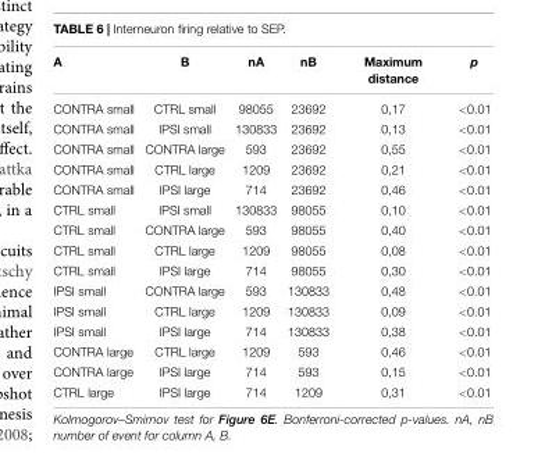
<table><thead><tr><td>A</td><td>B</td><td>nA</td><td>nB</td><td>Maximum distance</td><td>p</td></tr></thead><tbody><tr><td>CONTRA small</td><td>CTRL small</td><td>98055</td><td>23692</td><td>0,17</td><td>&lt;0.01</td></tr><tr><td>CONTRA small</td><td>IPSI small</td><td>130833</td><td>23692</td><td>0,13</td><td>&lt;0.01</td></tr><tr><td>CONTRA small</td><td>CONTRA large</td><td>593</td><td>23692</td><td>0,55</td><td>&lt;0.01</td></tr><tr><td>CONTRA small</td><td>CTRL large</td><td>1209</td><td>23692</td><td>0,21</td><td>&lt;0.01</td></tr><tr><td>CONTRA small</td><td>IPSI large</td><td>714</td><td>23692</td><td>0,46</td><td>&lt;0.01</td></tr><tr><td>CTRL small</td><td>IPSI small</td><td>130833</td><td>98055</td><td>0,10</td><td>&lt;0.01</td></tr><tr><td>CTRL small</td><td>CONTRA large</td><td>593</td><td>98055</td><td>0,40</td><td>&lt;0.01</td></tr><tr><td>CTRL small</td><td>CTRL large</td><td>1209</td><td>98055</td><td>0,08</td><td>&lt;0.01</td></tr><tr><td>CTRL small</td><td>IPSI large</td><td>714</td><td>98055</td><td>0,30</td><td>&lt;0.01</td></tr><tr><td>IPSI small</td><td>CONTRA large</td><td>593</td><td>130833</td><td>0,48</td><td>&lt;0.01</td></tr><tr><td>IPSI small</td><td>CTRL large</td><td>1209</td><td>130833</td><td>0,09</td><td>&lt;0.01</td></tr><tr><td>IPSI small</td><td>IPSI large</td><td>714</td><td>130833</td><td>0,38</td><td>&lt;0.01</td></tr><tr><td>CONTRA large</td><td>CTRL large</td><td>1209</td><td>593</td><td>0,46</td><td>&lt;0.01</td></tr><tr><td>CONTRA large</td><td>IPSI large</td><td>714</td><td>593</td><td>0,15</td><td>&lt;0.01</td></tr><tr><td>CTRL large</td><td>IPSI large</td><td>714</td><td>1209</td><td>0,31</td><td>&lt;0.01</td></tr></tbody></table>